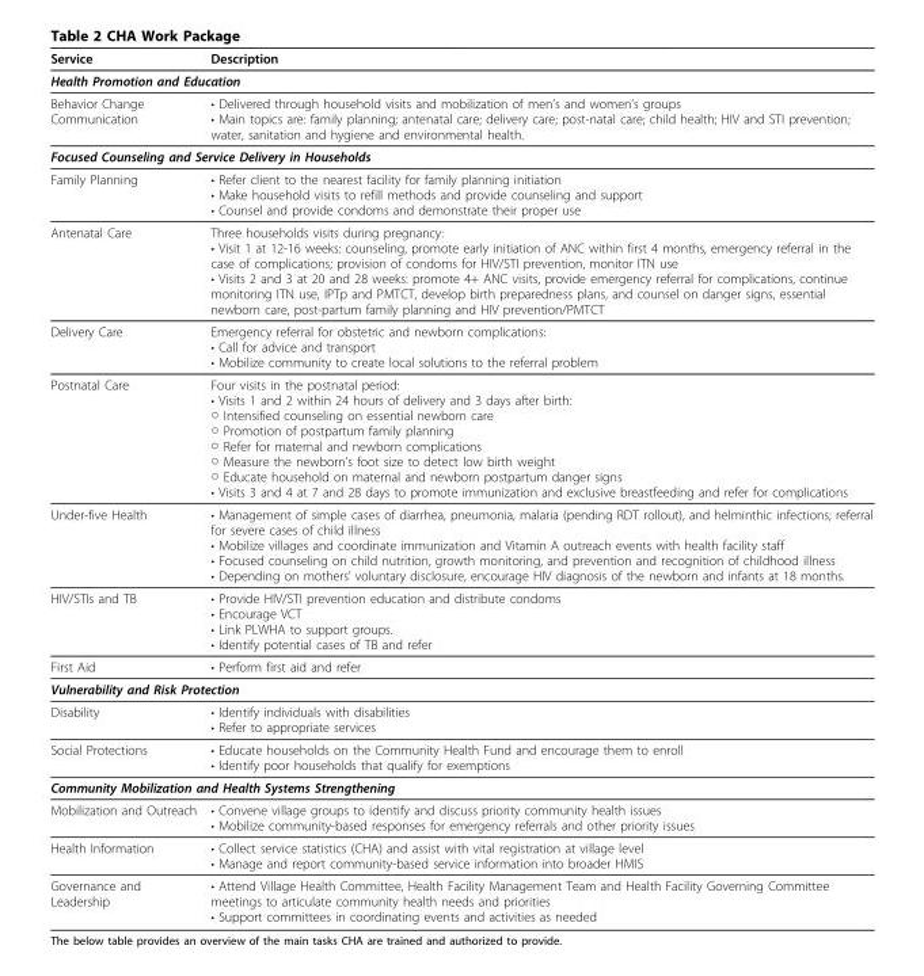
<table><thead><tr><td>Service</td><td>Description</td></tr></thead><tbody><tr><td colspan="2">Health Promotion and Education</td></tr><tr><td>Behavior Change Communication</td><td>• Delivered through household visits and mobilization of men’s and women’s groups • Main topics are: family planning; antenatal care; delivery care; post-natal care; child health; HIV and STI prevention; water, sanitation and hygiene and environmental health.</td></tr><tr><td colspan="2">Focused Counseling and Service Delivery in Households</td></tr><tr><td>Family Planning</td><td>• Refer client to the nearest facility for family planning initiation • Make household visits to refill methods and provide counseling and support • Counsel and provide condoms and demonstrate their proper use</td></tr><tr><td>Antenatal Care</td><td>Three households visits during pregnancy: • Visit 1 at 12-16 weeks: counseling, promote early initiation of ANC within first 4 months, emergency referral in the case of complications; provision of condoms for HIV/STI prevention, monitor ITN use • Visits 2 and 3 at 20 and 28 weeks: promote 4+ ANC visits, provide emergency referral for complications, continue monitoring ITN use, IPTp and PMTCT, develop birth preparedness plans, and counsel on danger signs, essential newborn care, post-partum family planning and HIV prevention/PMTCT</td></tr><tr><td>Delivery Care</td><td>Emergency referral for obstetric and newborn complications: • Call for advice and transport • Mobilize community to create local solutions to the referral problem</td></tr><tr><td>Postnatal Care</td><td>Four visits in the postnatal period: • Visits 1 and 2 within 24 hours of delivery and 3 days after birth: ○ Intensified counseling on essential newborn care ○ Promotion of postpartum family planning ○ Refer for maternal and newborn complications ○ Measure the newborn’s foot size to detect low birth weight ○ Educate household on maternal and newborn postpartum danger signs • Visits 3 and 4 at 7 and 28 days to promote immunization and exclusive breastfeeding and refer for complications</td></tr><tr><td>Under-five Health</td><td>• Management of simple cases of diarrhea, pneumonia, malaria (pending RDT rollout), and helminthic infections; referral for severe cases of child illness • Mobilize villages and coordinate immunization and Vitamin A outreach events with health facility staff • Focused counseling on child nutrition, growth monitoring, and prevention and recognition of childhood illness • Depending on mothers’ voluntary disclosure, encourage HIV diagnosis of the newborn and infants at 18 months.</td></tr><tr><td>HIV/STIs and TB</td><td>• Provide HIV/STI prevention education and distribute condoms • Encourage VCT • Link PLWHA to support groups. • Identify potential cases of TB and refer</td></tr><tr><td>First Aid</td><td>• Perform first aid and refer</td></tr><tr><td colspan="2">Vulnerability and Risk Protection</td></tr><tr><td>Disability</td><td>• Identify individuals with disabilities • Refer to appropriate services</td></tr><tr><td>Social Protections</td><td>• Educate households on the Community Health Fund and encourage them to enroll • Identify poor households that qualify for exemptions</td></tr><tr><td colspan="2">Community Mobilization and Health Systems Strengthening</td></tr><tr><td>Mobilization and Outreach</td><td>• Convene village groups to identify and discuss priority community health issues • Mobilize community-based responses for emergency referrals and other priority issues</td></tr><tr><td>Health Information</td><td>• Collect service statistics (CHA) and assist with vital registration at village level • Manage and report community-based service information into broader HMIS</td></tr><tr><td>Governance and Leadership</td><td>• Attend Village Health Committee, Health Facility Management Team and Health Facility Governing Committee meetings to articulate community health needs and priorities • Support committees in coordinating events and activities as needed</td></tr></tbody></table>